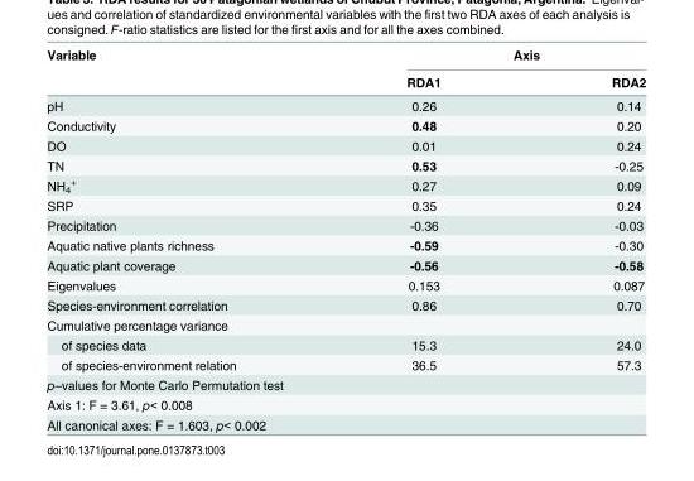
<table><thead><tr><td rowspan="2">Variable</td><td colspan="2">Axis</td></tr><tr><td>RDA1</td><td>RDA2</td></tr></thead><tbody><tr><td>pH</td><td>0.26</td><td>0.14</td></tr><tr><td>Conductivity</td><td>0.48</td><td>0.20</td></tr><tr><td>DO</td><td>0.01</td><td>0.24</td></tr><tr><td>TN</td><td>0.53</td><td>-0.25</td></tr><tr><td>NH<sub>4</sub> <sup>+</sup></td><td>0.27</td><td>0.09</td></tr><tr><td>SRP</td><td>0.35</td><td>0.24</td></tr><tr><td>Precipitation</td><td>-0.36</td><td>-0.03</td></tr><tr><td>Aquatic native plants richness</td><td>-0.59</td><td>-0.30</td></tr><tr><td>Aquatic plant coverage</td><td>-0.56</td><td>-0.58</td></tr><tr><td>Eigenvalues</td><td>0.153</td><td>0.087</td></tr><tr><td>Species-environment correlation</td><td>0.86</td><td>0.70</td></tr><tr><td colspan="3">Cumulative percentage variance</td></tr><tr><td>of species data</td><td>15.3</td><td>24.0</td></tr><tr><td>of species-environment relation</td><td>36.5</td><td>57.3</td></tr><tr><td colspan="3">p–values for Monte Carlo Permutation test</td></tr><tr><td colspan="3">Axis 1: F = 3.61, p&lt; 0.008</td></tr><tr><td colspan="3">All canonical axes: F = 1.603, p&lt; 0.002</td></tr></tbody></table>